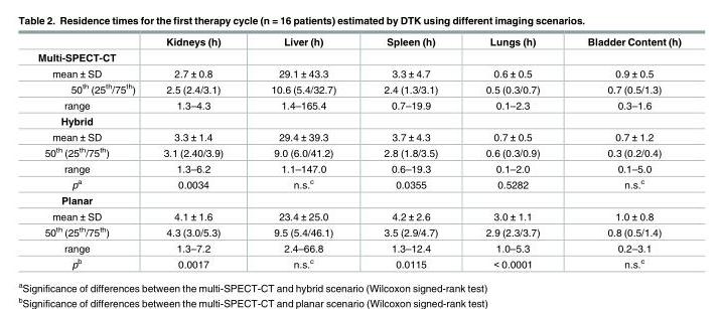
<table><thead><tr><td></td><td>Kidneys (h)</td><td>Liver (h)</td><td>Spleen (h)</td><td>Lungs (h)</td><td>Bladder Content (h)</td></tr></thead><tbody><tr><td colspan="6">Multi-SPECT-CT</td></tr><tr><td>mean ± SD</td><td>2.7 ± 0.8</td><td>29.1 ± 43.3</td><td>3.3 ± 4.7</td><td>0.6 ± 0.5</td><td>0.9 ± 0.5</td></tr><tr><td>50<sup>th</sup> (25<sup>th</sup>/75<sup>th</sup>)</td><td>2.5 (2.4/3.1)</td><td>10.6 (5.4/32.7)</td><td>2.4 (1.3/3.1)</td><td>0.5 (0.3/0.7)</td><td>0.7 (0.5/1.3)</td></tr><tr><td>range</td><td>1.3–4.3</td><td>1.4–165.4</td><td>0.7–19.9</td><td>0.1–2.3</td><td>0.3–1.6</td></tr><tr><td colspan="6">Hybrid</td></tr><tr><td>mean ± SD</td><td>3.3 ± 1.4</td><td>29.4 ± 39.3</td><td>3.7 ± 4.3</td><td>0.7 ± 0.5</td><td>0.7 ± 1.2</td></tr><tr><td>50<sup>th</sup> (25<sup>th</sup>/75<sup>th</sup>)</td><td>3.1 (2.40/3.9)</td><td>9.0 (6.0/41.2)</td><td>2.8 (1.8/3.5)</td><td>0.6 (0.3/0.9)</td><td>0.3 (0.2/0.4)</td></tr><tr><td>range</td><td>1.3–6.2</td><td>1.1–147.0</td><td>0.6–19.3</td><td>0.1–2.0</td><td>0.1–5.0</td></tr><tr><td>p<sup>a</sup></td><td>0.0034</td><td>n.s.<sup>c</sup></td><td>0.0355</td><td>0.5282</td><td>n.s.<sup>c</sup></td></tr><tr><td colspan="6">Planar</td></tr><tr><td>mean ± SD</td><td>4.1 ± 1.6</td><td>23.4 ± 25.0</td><td>4.2 ± 2.6</td><td>3.0 ± 1.1</td><td>1.0 ± 0.8</td></tr><tr><td>50<sup>th</sup> (25<sup>th</sup>/75<sup>th</sup>)</td><td>4.3 (3.0/5.3)</td><td>9.5 (5.4/46.1)</td><td>3.5 (2.9/4.7)</td><td>2.9 (2.3/3.7)</td><td>0.8 (0.5/1.4)</td></tr><tr><td>range</td><td>1.3–7.2</td><td>2.4–66.8</td><td>1.3–12.4</td><td>1.0–5.3</td><td>0.2–3.1</td></tr><tr><td>p<sup>b</sup></td><td>0.0017</td><td>n.s.<sup>c</sup></td><td>0.0115</td><td>&lt; 0.0001</td><td>n.s.<sup>c</sup></td></tr></tbody></table>